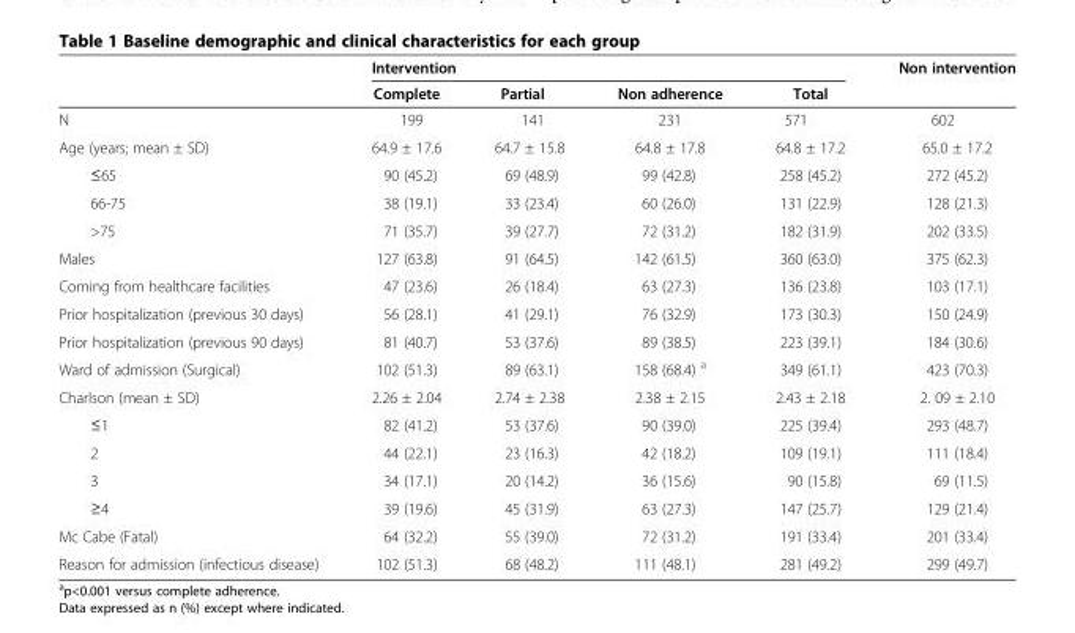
<table><thead><tr><td rowspan="2"></td><td colspan="4">Intervention</td><td rowspan="2">Non intervention</td></tr><tr><td>Complete</td><td>Partial</td><td>Non adherence</td><td>Total</td></tr></thead><tbody><tr><td>N</td><td>199</td><td>141</td><td>231</td><td>571</td><td>602</td></tr><tr><td>Age (years; mean ± SD)</td><td>64.9 ± 17.6</td><td>64.7 ± 15.8</td><td>64.8 ± 17.8</td><td>64.8 ± 17.2</td><td>65.0 ± 17.2</td></tr><tr><td>≤65</td><td>90 (45.2)</td><td>69 (48.9)</td><td>99 (42.8)</td><td>258 (45.2)</td><td>272 (45.2)</td></tr><tr><td>66-75</td><td>38 (19.1)</td><td>33 (23.4)</td><td>60 (26.0)</td><td>131 (22.9)</td><td>128 (21.3)</td></tr><tr><td>&gt;75</td><td>71 (35.7)</td><td>39 (27.7)</td><td>72 (31.2)</td><td>182 (31.9)</td><td>202 (33.5)</td></tr><tr><td>Males</td><td>127 (63.8)</td><td>91 (64.5)</td><td>142 (61.5)</td><td>360 (63.0)</td><td>375 (62.3)</td></tr><tr><td>Coming from healthcare facilities</td><td>47 (23.6)</td><td>26 (18.4)</td><td>63 (27.3)</td><td>136 (23.8)</td><td>103 (17.1)</td></tr><tr><td>Prior hospitalization (previous 30 days)</td><td>56 (28.1)</td><td>41 (29.1)</td><td>76 (32.9)</td><td>173 (30.3)</td><td>150 (24.9)</td></tr><tr><td>Prior hospitalization (previous 90 days)</td><td>81 (40.7)</td><td>53 (37.6)</td><td>89 (38.5)</td><td>223 (39.1)</td><td>184 (30.6)</td></tr><tr><td>Ward of admission (Surgical)</td><td>102 (51.3)</td><td>89 (63.1)</td><td>158 (68.4) <sup>a</sup></td><td>349 (61.1)</td><td>423 (70.3)</td></tr><tr><td>Charlson (mean ± SD)</td><td>2.26 ± 2.04</td><td>2.74 ± 2.38</td><td>2.38 ± 2.15</td><td>2.43 ± 2.18</td><td>2. 09 ± 2.10</td></tr><tr><td>≤1</td><td>82 (41.2)</td><td>53 (37.6)</td><td>90 (39.0)</td><td>225 (39.4)</td><td>293 (48.7)</td></tr><tr><td>2</td><td>44 (22.1)</td><td>23 (16.3)</td><td>42 (18.2)</td><td>109 (19.1)</td><td>111 (18.4)</td></tr><tr><td>3</td><td>34 (17.1)</td><td>20 (14.2)</td><td>36 (15.6)</td><td>90 (15.8)</td><td>69 (11.5)</td></tr><tr><td>≥4</td><td>39 (19.6)</td><td>45 (31.9)</td><td>63 (27.3)</td><td>147 (25.7)</td><td>129 (21.4)</td></tr><tr><td>Mc Cabe (Fatal)</td><td>64 (32.2)</td><td>55 (39.0)</td><td>72 (31.2)</td><td>191 (33.4)</td><td>201 (33.4)</td></tr><tr><td>Reason for admission (infectious disease)</td><td>102 (51.3)</td><td>68 (48.2)</td><td>111 (48.1)</td><td>281 (49.2)</td><td>299 (49.7)</td></tr></tbody></table>